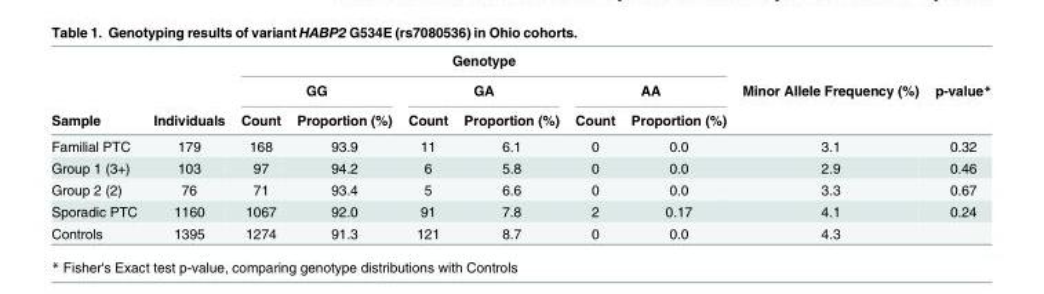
<table><thead><tr><td rowspan="3">Sample</td><td rowspan="3">Individuals</td><td colspan="6">Genotype</td><td rowspan="3">Minor Allele Frequency (%)</td><td rowspan="3">p-value*</td></tr><tr><td colspan="2">GG</td><td colspan="2">GA</td><td colspan="2">AA</td></tr><tr><td>Count</td><td>Proportion (%)</td><td>Count</td><td>Proportion (%)</td><td>Count</td><td>Proportion (%)</td></tr></thead><tbody><tr><td>Familial PTC</td><td>179</td><td>168</td><td>93.9</td><td>11</td><td>6.1</td><td>0</td><td>0.0</td><td>3.1</td><td>0.32</td></tr><tr><td>Group 1 (3+)</td><td>103</td><td>97</td><td>94.2</td><td>6</td><td>5.8</td><td>0</td><td>0.0</td><td>2.9</td><td>0.46</td></tr><tr><td>Group 2 (2)</td><td>76</td><td>71</td><td>93.4</td><td>5</td><td>6.6</td><td>0</td><td>0.0</td><td>3.3</td><td>0.67</td></tr><tr><td>Sporadic PTC</td><td>1160</td><td>1067</td><td>92.0</td><td>91</td><td>7.8</td><td>2</td><td>0.17</td><td>4.1</td><td>0.24</td></tr><tr><td>Controls</td><td>1395</td><td>1274</td><td>91.3</td><td>121</td><td>8.7</td><td>0</td><td>0.0</td><td>4.3</td><td></td></tr></tbody></table>